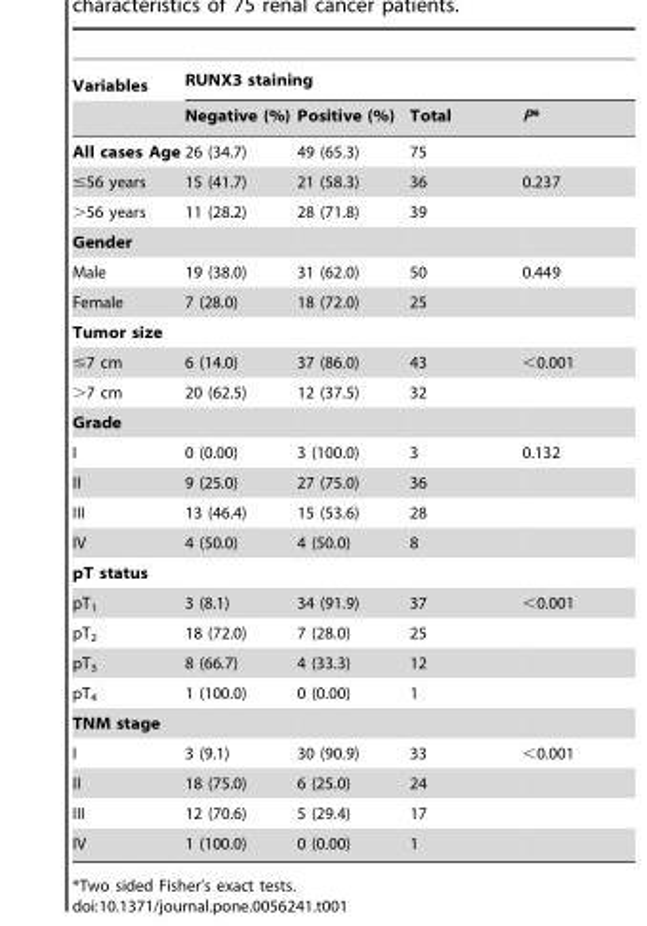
<table><thead><tr><td rowspan="2">Variables</td><td colspan="4">RUNX3 staining</td></tr><tr><td>Negative (%)</td><td>Positive (%)</td><td>Total</td><td>P*</td></tr></thead><tbody><tr><td>All cases Age</td><td>26 (34.7)</td><td>49 (65.3)</td><td>75</td><td></td></tr><tr><td>≤56 years</td><td>15 (41.7)</td><td>21 (58.3)</td><td>36</td><td>0.237</td></tr><tr><td>&gt;56 years</td><td>11 (28.2)</td><td>28 (71.8)</td><td>39</td><td></td></tr><tr><td colspan="5">Gender</td></tr><tr><td>Male</td><td>19 (38.0)</td><td>31 (62.0)</td><td>50</td><td>0.449</td></tr><tr><td>Female</td><td>7 (28.0)</td><td>18 (72.0)</td><td>25</td><td></td></tr><tr><td colspan="5">Tumor size</td></tr><tr><td>≤7 cm</td><td>6 (14.0)</td><td>37 (86.0)</td><td>43</td><td>&lt;0.001</td></tr><tr><td>&gt;7 cm</td><td>20 (62.5)</td><td>12 (37.5)</td><td>32</td><td></td></tr><tr><td colspan="5">Grade</td></tr><tr><td>I</td><td>0 (0.00)</td><td>3 (100.0)</td><td>3</td><td>0.132</td></tr><tr><td>II</td><td>9 (25.0)</td><td>27 (75.0)</td><td>36</td><td></td></tr><tr><td>III</td><td>13 (46.4)</td><td>15 (53.6)</td><td>28</td><td></td></tr><tr><td>IV</td><td>4 (50.0)</td><td>4 (50.0)</td><td>8</td><td></td></tr><tr><td colspan="5">pT status</td></tr><tr><td>pT<sub>1</sub></td><td>3 (8.1)</td><td>34 (91.9)</td><td>37</td><td>&lt;0.001</td></tr><tr><td>pT<sub>2</sub></td><td>18 (72.0)</td><td>7 (28.0)</td><td>25</td><td></td></tr><tr><td>pT<sub>3</sub></td><td>8 (66.7)</td><td>4 (33.3)</td><td>12</td><td></td></tr><tr><td>pT<sub>4</sub></td><td>1 (100.0)</td><td>0 (0.00)</td><td>1</td><td></td></tr><tr><td colspan="5">TNM stage</td></tr><tr><td>I</td><td>3 (9.1)</td><td>30 (90.9)</td><td>33</td><td>&lt;0.001</td></tr><tr><td>II</td><td>18 (75.0)</td><td>6 (25.0)</td><td>24</td><td></td></tr><tr><td>III</td><td>12 (70.6)</td><td>5 (29.4)</td><td>17</td><td></td></tr><tr><td>IV</td><td>1 (100.0)</td><td>0 (0.00)</td><td>1</td><td></td></tr></tbody></table>